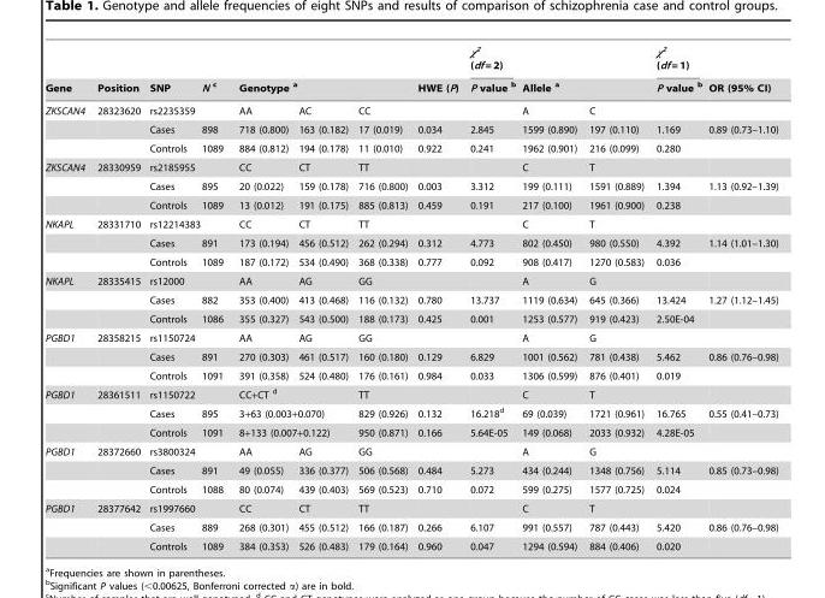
<table><thead><tr><td rowspan="2">Gene</td><td rowspan="2">Position</td><td rowspan="2">SNP</td><td rowspan="2">N c</td><td></td><td></td><td></td><td rowspan="2">HWE (P)</td><td rowspan="2">χ<sup>2</sup> (df = 2) P value b</td><td></td><td></td><td rowspan="2">χ<sup>2</sup> (df = 1) P value b</td><td rowspan="2">OR (95% CI)</td></tr><tr><td colspan="3">Genotype a</td><td colspan="2">Allele a</td></tr></thead><tbody><tr><td rowspan="3">ZKSCAN4</td><td>28323620</td><td>rs2235359</td><td></td><td>AA</td><td>AC</td><td>CC</td><td></td><td></td><td>A</td><td>C</td><td></td><td></td></tr><tr><td></td><td>Cases</td><td>898</td><td>718 (0.800)</td><td>163 (0.182)</td><td>17 (0.019)</td><td>0.034</td><td>2.845</td><td>1599 (0.890)</td><td>197 (0.110)</td><td>1.169</td><td>0.89 (0.73–1.10)</td></tr><tr><td></td><td>Controls</td><td>1089</td><td>884 (0.812)</td><td>194 (0.178)</td><td>11 (0.010)</td><td>0.922</td><td>0.241</td><td>1962 (0.901)</td><td>216 (0.099)</td><td>0.280</td><td></td></tr><tr><td rowspan="3">ZKSCAN4</td><td>28330959</td><td>rs2185955</td><td></td><td>CC</td><td>CT</td><td>TT</td><td></td><td></td><td>C</td><td>T</td><td></td><td></td></tr><tr><td></td><td>Cases</td><td>895</td><td>20 (0.022)</td><td>159 (0.178)</td><td>716 (0.800)</td><td>0.003</td><td>3.312</td><td>199 (0.111)</td><td>1591 (0.889)</td><td>1.394</td><td>1.13 (0.92–1.39)</td></tr><tr><td></td><td>Controls</td><td>1089</td><td>13 (0.012)</td><td>191 (0.175)</td><td>885 (0.813)</td><td>0.459</td><td>0.191</td><td>217 (0.100)</td><td>1961 (0.900)</td><td>0.238</td><td></td></tr><tr><td rowspan="3">NKAPL</td><td>28331710</td><td>rs12214383</td><td></td><td>CC</td><td>CT</td><td>TT</td><td></td><td></td><td>C</td><td>T</td><td></td><td></td></tr><tr><td></td><td>Cases</td><td>891</td><td>173 (0.194)</td><td>456 (0.512)</td><td>262 (0.294)</td><td>0.312</td><td>4.773</td><td>802 (0.450)</td><td>980 (0.550)</td><td>4.392</td><td>1.14 (1.01–1.30)</td></tr><tr><td></td><td>Controls</td><td>1089</td><td>187 (0.172)</td><td>534 (0.490)</td><td>368 (0.338)</td><td>0.777</td><td>0.092</td><td>908 (0.417)</td><td>1270 (0.583)</td><td>0.036</td><td></td></tr><tr><td rowspan="3">NKAPL</td><td>28335415</td><td>rs12000</td><td></td><td>AA</td><td>AG</td><td>GG</td><td></td><td></td><td>A</td><td>G</td><td></td><td></td></tr><tr><td></td><td>Cases</td><td>882</td><td>353 (0.400)</td><td>413 (0.468)</td><td>116 (0.132)</td><td>0.780</td><td>13.737</td><td>1119 (0.634)</td><td>645 (0.366)</td><td>13.424</td><td>1.27 (1.12–1.45)</td></tr><tr><td></td><td>Controls</td><td>1086</td><td>355 (0.327)</td><td>543 (0.500)</td><td>188 (0.173)</td><td>0.425</td><td>0.001</td><td>1253 (0.577)</td><td>919 (0.423)</td><td>2.50E-04</td><td></td></tr><tr><td rowspan="3">PGBD1</td><td>28358215</td><td>rs1150724</td><td></td><td>AA</td><td>AG</td><td>GG</td><td></td><td></td><td>A</td><td>G</td><td></td><td></td></tr><tr><td></td><td>Cases</td><td>891</td><td>270 (0.303)</td><td>461 (0.517)</td><td>160 (0.180)</td><td>0.129</td><td>6.829</td><td>1001 (0.562)</td><td>781 (0.438)</td><td>5.462</td><td>0.86 (0.76–0.98)</td></tr><tr><td></td><td>Controls</td><td>1091</td><td>391 (0.358)</td><td>524 (0.480)</td><td>176 (0.161)</td><td>0.984</td><td>0.033</td><td>1306 (0.599)</td><td>876 (0.401)</td><td>0.019</td><td></td></tr><tr><td rowspan="3">PGBD1</td><td>28361511</td><td>rs1150722</td><td></td><td colspan="2">CC+CT <sup>d</sup></td><td>TT</td><td></td><td></td><td>C</td><td>T</td><td></td><td></td></tr><tr><td></td><td>Cases</td><td>895</td><td colspan="2">3+63 (0.003+0.070)</td><td>829 (0.926)</td><td>0.132</td><td>16.218<sup>d</sup></td><td>69 (0.039)</td><td>1721 (0.961)</td><td>16.765</td><td>0.55 (0.41–0.73)</td></tr><tr><td></td><td>Controls</td><td>1091</td><td colspan="2">8+133 (0.007+0.122)</td><td>950 (0.871)</td><td>0.166</td><td>5.64E-05</td><td>149 (0.068)</td><td>2033 (0.932)</td><td>4.28E-05</td><td></td></tr><tr><td rowspan="3">PGBD1</td><td>28372660</td><td>rs3800324</td><td></td><td>AA</td><td>AG</td><td>GG</td><td></td><td></td><td>A</td><td>G</td><td></td><td></td></tr><tr><td></td><td>Cases</td><td>891</td><td>49 (0.055)</td><td>336 (0.377)</td><td>506 (0.568)</td><td>0.484</td><td>5.273</td><td>434 (0.244)</td><td>1348 (0.756)</td><td>5.114</td><td>0.85 (0.73–0.98)</td></tr><tr><td></td><td>Controls</td><td>1088</td><td>80 (0.074)</td><td>439 (0.403)</td><td>569 (0.523)</td><td>0.710</td><td>0.072</td><td>599 (0.275)</td><td>1577 (0.725)</td><td>0.024</td><td></td></tr><tr><td rowspan="3">PGBD1</td><td>28377642</td><td>rs1997660</td><td></td><td>CC</td><td>CT</td><td>TT</td><td></td><td></td><td>C</td><td>T</td><td></td><td></td></tr><tr><td></td><td>Cases</td><td>889</td><td>268 (0.301)</td><td>455 (0.512)</td><td>166 (0.187)</td><td>0.266</td><td>6.107</td><td>991 (0.557)</td><td>787 (0.443)</td><td>5.420</td><td>0.86 (0.76–0.98)</td></tr><tr><td></td><td>Controls</td><td>1089</td><td>384 (0.353)</td><td>526 (0.483)</td><td>179 (0.164)</td><td>0.960</td><td>0.047</td><td>1294 (0.594)</td><td>884 (0.406)</td><td>0.020</td><td></td></tr></tbody></table>